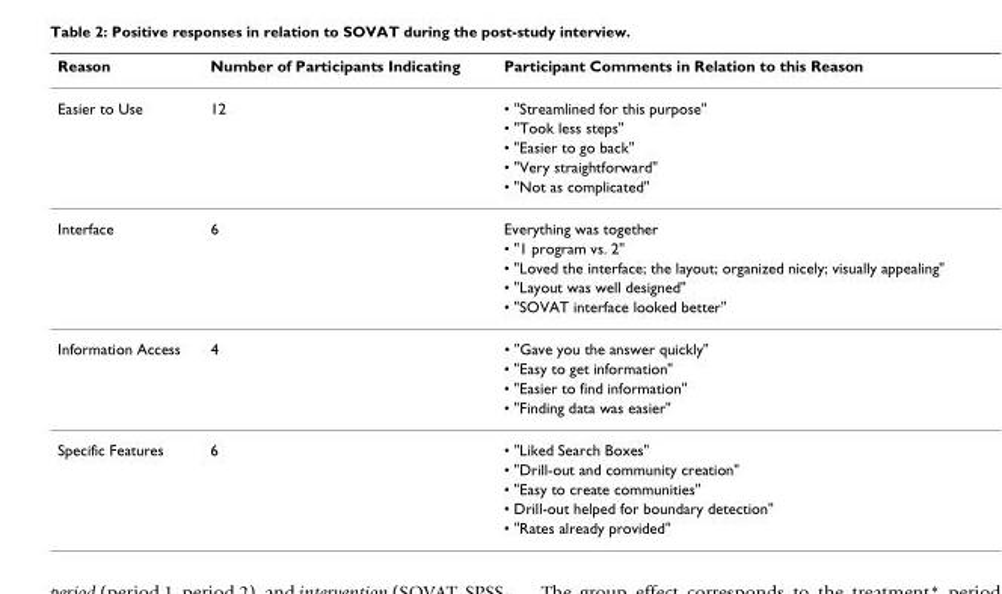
<table><thead><tr><td>Reason</td><td>Number of Participants Indicating</td><td>Participant Comments in Relation to this Reason</td></tr></thead><tbody><tr><td rowspan="5">Easier to Use</td><td>12</td><td>• &quot;Streamlined for this purpose&quot;</td></tr><tr><td></td><td>• &quot;Took less steps&quot;</td></tr><tr><td></td><td>• &quot;Easier to go back&quot;</td></tr><tr><td></td><td>• &quot;Very straightforward&quot;</td></tr><tr><td></td><td>• &quot;Not as complicated&quot;</td></tr><tr><td rowspan="5">Interface</td><td>6</td><td>Everything was together</td></tr><tr><td></td><td>• &quot;1 program vs. 2&quot;</td></tr><tr><td></td><td>• &quot;Loved the interface; the layout; organized nicely; visually appealing&quot;</td></tr><tr><td></td><td>• &quot;Layout was well designed&quot;</td></tr><tr><td></td><td>• &quot;SOVAT interface looked better&quot;</td></tr><tr><td rowspan="4">Information Access</td><td>4</td><td>• &quot;Gave you the answer quickly&quot;</td></tr><tr><td></td><td>• &quot;Easy to get information&quot;</td></tr><tr><td></td><td>• &quot;Easier to find information&quot;</td></tr><tr><td></td><td>• &quot;Finding data was easier&quot;</td></tr><tr><td rowspan="5">Specific Features</td><td>6</td><td>• &quot;Liked Search Boxes&quot;</td></tr><tr><td></td><td>• &quot;Drill-out and community creation&quot;</td></tr><tr><td></td><td>• &quot;Easy to create communities&quot;</td></tr><tr><td></td><td>• Drill-out helped for boundary detection&quot;</td></tr><tr><td></td><td>• &quot;Rates already provided&quot;</td></tr></tbody></table>